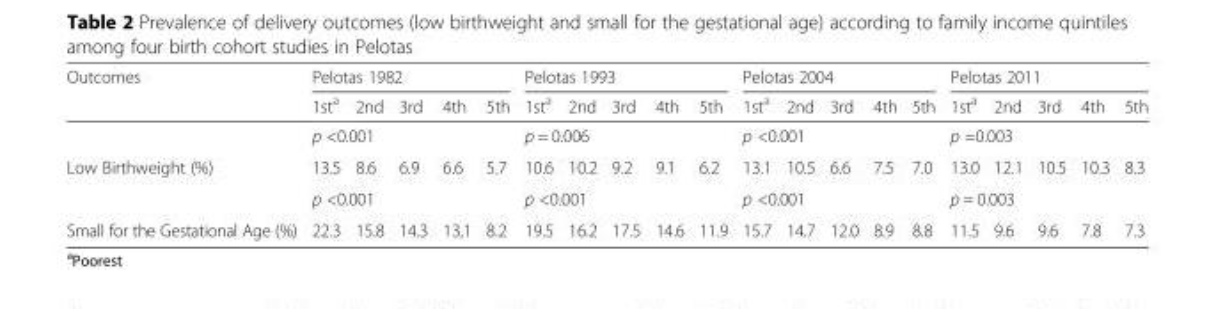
<table><thead><tr><td rowspan="2">Outcomes</td><td colspan="5">Pelotas 1982</td><td colspan="5">Pelotas 1993</td><td colspan="5">Pelotas 2004</td><td colspan="5">Pelotas 2011</td></tr><tr><td>1st<sup>a</sup></td><td>2nd</td><td>3rd</td><td>4th</td><td>5th</td><td>1st<sup>a</sup></td><td>2nd</td><td>3rd</td><td>4th</td><td>5th</td><td>1st<sup>a</sup></td><td>2nd</td><td>3rd</td><td>4th</td><td>5th</td><td>1st<sup>a</sup></td><td>2nd</td><td>3rd</td><td>4th</td><td>5th</td></tr></thead><tbody><tr><td></td><td colspan="5">p &lt;0.001</td><td colspan="5">p = 0.006</td><td colspan="5">p &lt;0.001</td><td colspan="5">p =0.003</td></tr><tr><td rowspan="2">Low Birthweight (%)</td><td>13.5</td><td>8.6</td><td>6.9</td><td>6.6</td><td>5.7</td><td>10.6</td><td>10.2</td><td>9.2</td><td>9.1</td><td>6.2</td><td>13.1</td><td>10.5</td><td>6.6</td><td>7.5</td><td>7.0</td><td>13.0</td><td>12.1</td><td>10.5</td><td>10.3</td><td>8.3</td></tr><tr><td colspan="5">p &lt;0.001</td><td colspan="5">p &lt;0.001</td><td colspan="5">p &lt;0.001</td><td colspan="5">p = 0.003</td></tr><tr><td>Small for the Gestational Age (%)</td><td>22.3</td><td>15.8</td><td>14.3</td><td>13,1</td><td>8.2</td><td>19.5</td><td>16.2</td><td>17.5</td><td>14.6</td><td>11.9</td><td>15.7</td><td>14.7</td><td>12.0</td><td>8.9</td><td>8.8</td><td>11.5</td><td>9.6</td><td>9.6</td><td>7.8</td><td>7.3</td></tr></tbody></table>